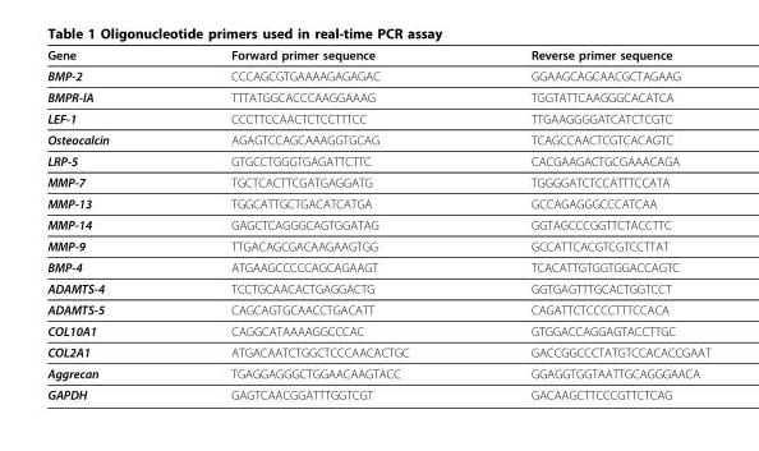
<table><thead><tr><td>Gene</td><td>Forward primer sequence</td><td>Reverse primer sequence</td></tr></thead><tbody><tr><td>BMP-2</td><td>CCCAGCGTGAAAAGAGAGAC</td><td>GGAAGCAGCAACGCTAGAAG</td></tr><tr><td>BMPR-IA</td><td>TTTATGGCACCCAAGGAAAG</td><td>TGGTATTCAAGGGCACATCA</td></tr><tr><td>LEF-1</td><td>CCCTTCCAACTCTCCTTTCC</td><td>TTGAAGGGGATCATCTCGTC</td></tr><tr><td>Osteocalcin</td><td>AGAGTCCAGCAAAGGTGCAG</td><td>TCAGCCAACTCGTCACAGTC</td></tr><tr><td>LRP-5</td><td>GTGCCTGGGTGAGATTCTTC</td><td>CACGAAGACTGCGAAACAGA</td></tr><tr><td>MMP-7</td><td>TGCTCACTTCGATGAGGATG</td><td>TGGGGATCTCCATTTCCATA</td></tr><tr><td>MMP-13</td><td>TGGCATTGCTGACATCATGA</td><td>GCCAGAGGGCCCATCAA</td></tr><tr><td>MMP-14</td><td>GAGCTCAGGGCAGTGGATAG</td><td>GGTAGCCCGGTTCTACCTTC</td></tr><tr><td>MMP-9</td><td>TTGACAGCGACAAGAAGTGG</td><td>GCCATTCACGTCGTCCTTAT</td></tr><tr><td>BMP-4</td><td>ATGAAGCCCCCAGCAGAAGT</td><td>TCACATTGTGGTGGACCAGTC</td></tr><tr><td>ADAMTS-4</td><td>TCCTGCAACACTGAGGACTG</td><td>GGTGAGTTTGCACTGGTCCT</td></tr><tr><td>ADAMTS-5</td><td>CAGCAGTGCAACCTGACATT</td><td>CAGATTCTCCCCTTTCCACA</td></tr><tr><td>COL10A1</td><td>CAGGCATAAAAGGCCCAC</td><td>GTGGACCAGGAGTACCTTGC</td></tr><tr><td>COL2A1</td><td>ATGACAATCTGGCTCCCAACACTGC</td><td>GACCGGCCCTATGTCCACACCGAAT</td></tr><tr><td>Aggrecan</td><td>TGAGGAGGGCTGGAACAAGTACC</td><td>GGAGGTGGTAATTGCAGGGAACA</td></tr><tr><td>GAPDH</td><td>GAGTCAACGGATTTGGTCGT</td><td>GACAAGCTTCCCGTTCTCAG</td></tr></tbody></table>